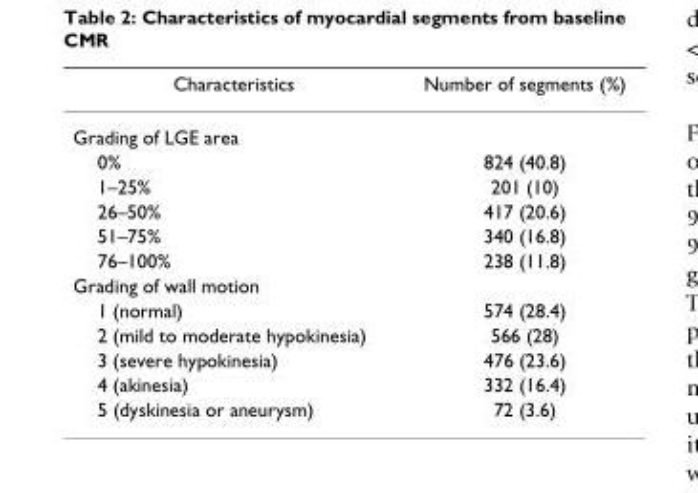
<table><thead><tr><td>Characteristics</td><td>Number of segments (%)</td></tr></thead><tbody><tr><td colspan="2">Grading of LGE area</td></tr><tr><td>0%</td><td>824 (40.8)</td></tr><tr><td>1–25%</td><td>201 (10)</td></tr><tr><td>26–50%</td><td>417 (20.6)</td></tr><tr><td>51–75%</td><td>340 (16.8)</td></tr><tr><td>76–100%</td><td>238 (11.8)</td></tr><tr><td colspan="2">Grading of wall motion</td></tr><tr><td>1 (normal)</td><td>574 (28.4)</td></tr><tr><td>2 (mild to moderate hypokinesia)</td><td>566 (28)</td></tr><tr><td>3 (severe hypokinesia)</td><td>476 (23.6)</td></tr><tr><td>4 (akinesia)</td><td>332 (16.4)</td></tr><tr><td>5 (dyskinesia or aneurysm)</td><td>72 (3.6)</td></tr></tbody></table>